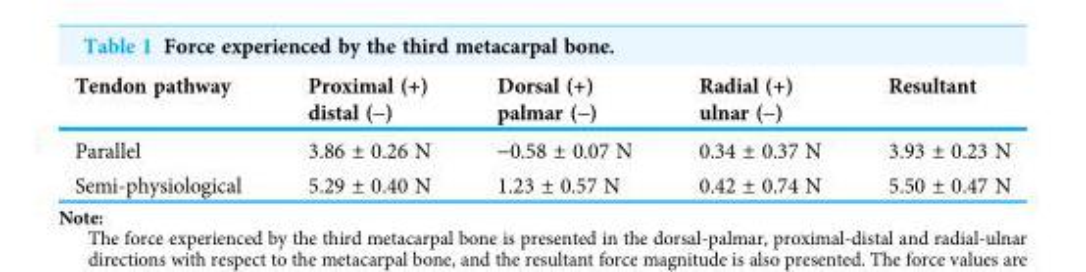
<table><thead><tr><td>Tendon pathway</td><td>Proximal (+) distal (-)</td><td>Dorsal (+) palmar (-)</td><td>Radial (+) ulnar (-)</td><td>Resultant</td></tr></thead><tbody><tr><td>Parallel</td><td>3.86 ± 0.26 N</td><td>-0.58 ± 0.07 N</td><td>0.34 ± 0.37 N</td><td>3.93 ± 0.23 N</td></tr><tr><td>Semi-physiological</td><td>5.29 ± 0.40 N</td><td>1.23 ± 0.57 N</td><td>0.42 ± 0.74 N</td><td>5.50 ± 0.47 N</td></tr></tbody></table>